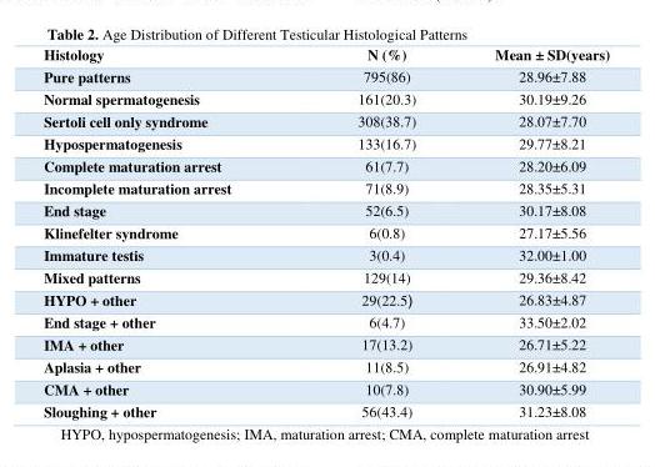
<table><thead><tr><td>Histology</td><td>N (%)</td><td>Mean ± SD(years)</td></tr></thead><tbody><tr><td>Pure patterns</td><td>795(86)</td><td>28.96±7.88</td></tr><tr><td>Normal spermatogenesis</td><td>161(20.3)</td><td>30.19±9.26</td></tr><tr><td>Sertoli cell only syndrome</td><td>308(38.7)</td><td>28.07±7.70</td></tr><tr><td>Hypospermatogenesis</td><td>133(16.7)</td><td>29.77±8.21</td></tr><tr><td>Complete maturation arrest</td><td>61(7.7)</td><td>28.20±6.09</td></tr><tr><td>Incomplete maturation arrest</td><td>71(8.9)</td><td>28.35±5.31</td></tr><tr><td>End stage</td><td>52(6.5)</td><td>30.17±8.08</td></tr><tr><td>Klinefelter syndrome</td><td>6(0.8)</td><td>27.17±5.56</td></tr><tr><td>Immature testis</td><td>3(0.4)</td><td>32.00±1.00</td></tr><tr><td>Mixed patterns</td><td>129(14)</td><td>29.36±8.42</td></tr><tr><td>HYPO + other</td><td>29(22.5(</td><td>26.83±4.87</td></tr><tr><td>End stage + other</td><td>6(4.7)</td><td>33.50±2.02</td></tr><tr><td>IMA + other</td><td>17(13.2)</td><td>26.71±5.22</td></tr><tr><td>Aplasia + other</td><td>11(8.5)</td><td>26.91±4.82</td></tr><tr><td>CMA + other</td><td>10(7.8)</td><td>30.90±5.99</td></tr><tr><td>Sloughing + other</td><td>56(43.4)</td><td>31.23±8.08</td></tr></tbody></table>